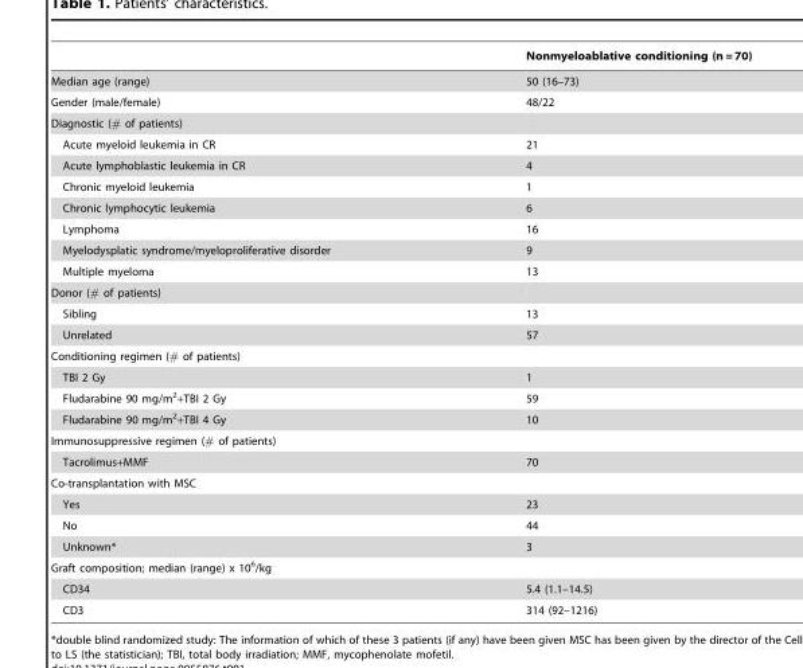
<table><thead><tr><td></td><td>Nonmyeloablative conditioning (n = 70)</td></tr></thead><tbody><tr><td>Median age (range)</td><td>50 (16–73)</td></tr><tr><td>Gender (male/female)</td><td>48/22</td></tr><tr><td colspan="2">Diagnostic (# of patients)</td></tr><tr><td>Acute myeloid leukemia in CR</td><td>21</td></tr><tr><td>Acute lymphoblastic leukemia in CR</td><td>4</td></tr><tr><td>Chronic myeloid leukemia</td><td>1</td></tr><tr><td>Chronic lymphocytic leukemia</td><td>6</td></tr><tr><td>Lymphoma</td><td>16</td></tr><tr><td>Myelodysplatic syndrome/myeloproliferative disorder</td><td>9</td></tr><tr><td>Multiple myeloma</td><td>13</td></tr><tr><td colspan="2">Donor (# of patients)</td></tr><tr><td>Sibling</td><td>13</td></tr><tr><td>Unrelated</td><td>57</td></tr><tr><td colspan="2">Conditioning regimen (# of patients)</td></tr><tr><td>TBI 2 Gy</td><td>1</td></tr><tr><td>Fludarabine 90 mg/m<sup>2</sup>+TBI 2 Gy</td><td>59</td></tr><tr><td>Fludarabine 90 mg/m<sup>2</sup>+TBI 4 Gy</td><td>10</td></tr><tr><td colspan="2">Immunosuppressive regimen (# of patients)</td></tr><tr><td>Tacrolimus+MMF</td><td>70</td></tr><tr><td colspan="2">Co-transplantation with MSC</td></tr><tr><td>Yes</td><td>23</td></tr><tr><td>No</td><td>44</td></tr><tr><td>Unknown*</td><td>3</td></tr><tr><td colspan="2">Graft composition; median (range) x 10<sup>6</sup>/kg</td></tr><tr><td>CD34</td><td>5.4 (1.1–14.5)</td></tr><tr><td>CD3</td><td>314 (92–1216)</td></tr></tbody></table>